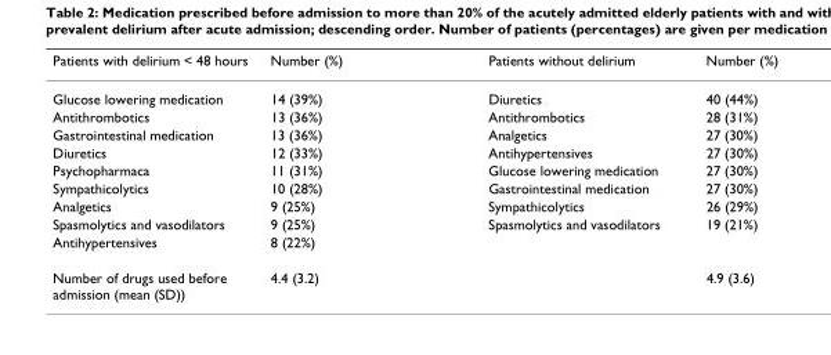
<table><thead><tr><td>Patients with delirium &lt; 48 hours</td><td>Number (%)</td><td>Patients without delirium</td><td>Number (%)</td></tr></thead><tbody><tr><td>Glucose lowering medication</td><td>14 (39%)</td><td>Diuretics</td><td>40 (44%)</td></tr><tr><td>Antithrombotics</td><td>13 (36%)</td><td>Antithrombotics</td><td>28 (31%)</td></tr><tr><td>Gastrointestinal medication</td><td>13 (36%)</td><td>Analgetics</td><td>27 (30%)</td></tr><tr><td>Diuretics</td><td>12 (33%)</td><td>Antihypertensives</td><td>27 (30%)</td></tr><tr><td>Psychopharmaca</td><td>11 (31%)</td><td>Glucose lowering medication</td><td>27 (30%)</td></tr><tr><td>Sympathicolytics</td><td>10 (28%)</td><td>Gastrointestinal medication</td><td>27 (30%)</td></tr><tr><td>Analgetics</td><td>9 (25%)</td><td>Sympathicolytics</td><td>26 (29%)</td></tr><tr><td>Spasmolytics and vasodilators</td><td>9 (25%)</td><td>Spasmolytics and vasodilators</td><td>19 (21%)</td></tr><tr><td>Antihypertensives</td><td>8 (22%)</td><td></td><td></td></tr><tr><td>Number of drugs used before admission (mean (SD))</td><td>4.4 (3.2)</td><td></td><td>4.9 (3.6)</td></tr></tbody></table>